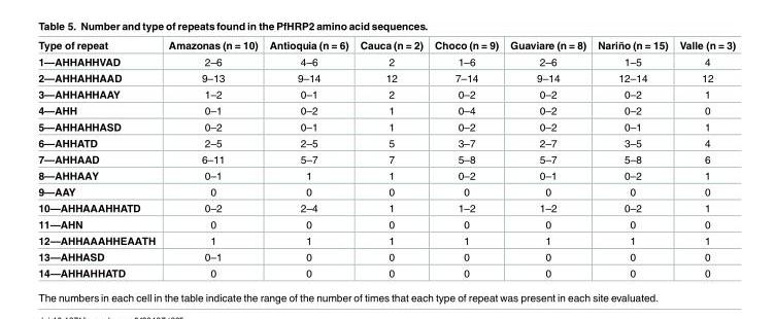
<table><thead><tr><td>Type of repeat</td><td>Amazonas (n = 10)</td><td>Antioquia (n = 6)</td><td>Cauca (n = 2)</td><td>Choco (n = 9)</td><td>Guaviare (n = 8)</td><td>Nariño (n = 15)</td><td>Valle (n = 3)</td></tr></thead><tbody><tr><td>1—AHHAHHVAD</td><td>2–6</td><td>4–6</td><td>2</td><td>1–6</td><td>2–6</td><td>1–5</td><td>4</td></tr><tr><td>2—AHHAHHAAD</td><td>9–13</td><td>9–14</td><td>12</td><td>7–14</td><td>9–14</td><td>12–14</td><td>12</td></tr><tr><td>3—AHHAHHAAY</td><td>1–2</td><td>0–1</td><td>2</td><td>0–2</td><td>0–2</td><td>0–2</td><td>1</td></tr><tr><td>4—AHH</td><td>0–1</td><td>0–2</td><td>1</td><td>0–4</td><td>0–2</td><td>0–2</td><td>0</td></tr><tr><td>5—AHHAHHASD</td><td>0–2</td><td>0–1</td><td>1</td><td>0–2</td><td>0–2</td><td>0–1</td><td>1</td></tr><tr><td>6—AHHATD</td><td>2–5</td><td>2–5</td><td>5</td><td>3–7</td><td>2–7</td><td>3–5</td><td>4</td></tr><tr><td>7—AHHAAD</td><td>6–11</td><td>5–7</td><td>7</td><td>5–8</td><td>5–7</td><td>5–8</td><td>6</td></tr><tr><td>8—AHHAAY</td><td>0–1</td><td>1</td><td>1</td><td>0–2</td><td>0–1</td><td>0–2</td><td>1</td></tr><tr><td>9—AAY</td><td>0</td><td>0</td><td>0</td><td>0</td><td>0</td><td>0</td><td>0</td></tr><tr><td>10—AHHAAAHHATD</td><td>0–2</td><td>2–4</td><td>1</td><td>1–2</td><td>1–2</td><td>0–2</td><td>1</td></tr><tr><td>11—AHN</td><td>0</td><td>0</td><td>0</td><td>0</td><td>0</td><td>0</td><td>0</td></tr><tr><td>12—AHHAAAHHEAATH</td><td>1</td><td>1</td><td>1</td><td>1</td><td>1</td><td>1</td><td>1</td></tr><tr><td>13—AHHASD</td><td>0–1</td><td>0</td><td>0</td><td>0</td><td>0</td><td>0</td><td>0</td></tr><tr><td>14—AHHAHHATD</td><td>0</td><td>0</td><td>0</td><td>0</td><td>0</td><td>0</td><td>0</td></tr></tbody></table>